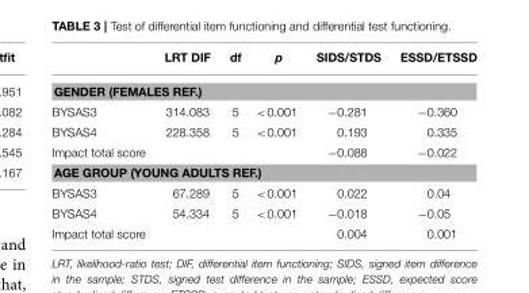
<table><thead><tr><td></td><td>LRT DIF</td><td>df</td><td>p</td><td>SIDS/STDS</td><td>ESSD/ETSSD</td></tr></thead><tbody><tr><td colspan="6">GENDER (FEMALES REF.)</td></tr><tr><td>BYSAS3</td><td>314.083</td><td>5</td><td>&lt;0.001</td><td>−0.281</td><td>−0.360</td></tr><tr><td>BYSAS4</td><td>228.358</td><td>5</td><td>&lt;0.001</td><td>0.193</td><td>0.335</td></tr><tr><td>Impact total score</td><td></td><td></td><td></td><td>−0.088</td><td>−0.022</td></tr><tr><td colspan="6">AGE GROUP (YOUNG ADULTS REF.)</td></tr><tr><td>BYSAS3</td><td>67.289</td><td>5</td><td>&lt;0.001</td><td>0.022</td><td>0.04</td></tr><tr><td>BYSAS4</td><td>54.334</td><td>5</td><td>&lt;0.001</td><td>−0.018</td><td>−0.05</td></tr><tr><td>Impact total score</td><td></td><td></td><td></td><td>0.004</td><td>0.001</td></tr></tbody></table>